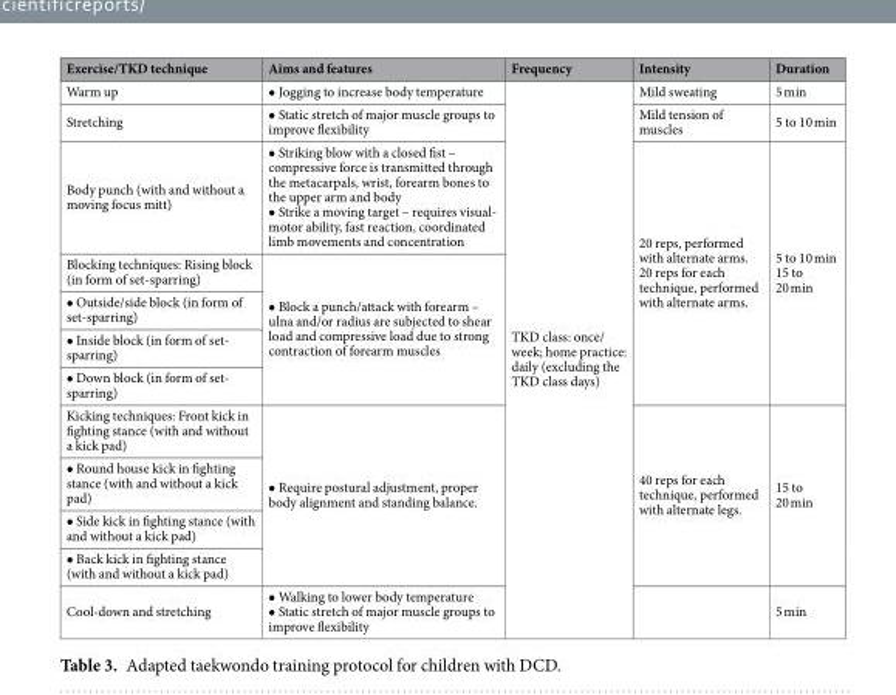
<table><thead><tr><td>Exercise/TKD technique</td><td>Aims and features</td><td>Frequency</td><td>Intensity</td><td>Duration</td></tr></thead><tbody><tr><td>Warm up</td><td>• Jogging to increase body temperature</td><td rowspan="12">TKD class: once/ week; home practice: daily (excluding the TKD class days)</td><td>Mild sweating</td><td>5 min</td></tr><tr><td>Stretching</td><td>• Static stretch of major muscle groups to improve flexibility</td><td>Mild tension of muscles</td><td>5 to 10 min</td></tr><tr><td>Body punch (with and without a moving focus mitt)</td><td>• Striking blow with a closed fist – compressive force is transmitted through the metacarpals, wrist, forearm bones to the upper arm and body • Strike a moving target – requires visual- motor ability, fast reaction, coordinated limb movements and concentration</td><td rowspan="5">20 reps, performed with alternate arms. 20 reps for each technique, performed with alternate arms.</td><td rowspan="5">5 to 10 min 15 to 20 min</td></tr><tr><td>Blocking techniques: Rising block (in form of set-sparring)</td><td rowspan="4">• Block a punch/attack with forearm – ulna and/or radius are subjected to shear load and compressive load due to strong contraction of forearm muscles</td></tr><tr><td>• Outside/side block (in form of set-sparring)</td></tr><tr><td>• Inside block (in form of set- sparring)</td></tr><tr><td>• Down block (in form of set- sparring)</td></tr><tr><td>Kicking techniques: Front kick in fighting stance (with and without a kick pad)</td><td rowspan="4">• Require postural adjustment, proper body alignment and standing balance.</td><td rowspan="4">40 reps for each technique, performed with alternate legs.</td><td rowspan="4">15 to 20 min</td></tr><tr><td>• Round house kick in fighting stance (with and without a kick pad)</td></tr><tr><td>• Side kick in fighting stance (with and without a kick pad)</td></tr><tr><td>• Back kick in fighting stance (with and without a kick pad)</td></tr><tr><td>Cool-down and stretching</td><td>• Walking to lower body temperature • Static stretch of major muscle groups to improve flexibility</td><td></td><td>5 min</td></tr></tbody></table>